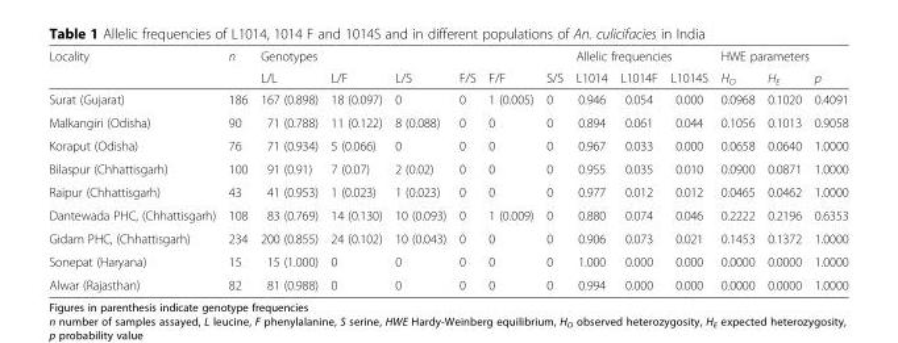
<table><thead><tr><td rowspan="2">Locality</td><td rowspan="2">n</td><td colspan="6">Genotypes</td><td colspan="3">Allelic frequencies</td><td colspan="3">HWE parameters</td></tr><tr><td>L/L</td><td>L/F</td><td>L/S</td><td>F/S</td><td>F/F</td><td>S/S</td><td>L1014</td><td>L1014F</td><td>L1014S</td><td>H<sub>O</sub></td><td>H<sub>E</sub></td><td>p</td></tr></thead><tbody><tr><td>Surat (Gujarat)</td><td>186</td><td>167 (0.898)</td><td>18 (0.097)</td><td>0</td><td>0</td><td>1 (0.005)</td><td>0</td><td>0.946</td><td>0.054</td><td>0.000</td><td>0.0968</td><td>0.1020</td><td>0.4091</td></tr><tr><td>Malkangiri (Odisha)</td><td>90</td><td>71 (0.788)</td><td>11 (0.122)</td><td>8 (0.088)</td><td>0</td><td>0</td><td>0</td><td>0.894</td><td>0.061</td><td>0.044</td><td>0.1056</td><td>0.1013</td><td>0.9058</td></tr><tr><td>Koraput (Odisha)</td><td>76</td><td>71 (0.934)</td><td>5 (0.066)</td><td>0</td><td>0</td><td>0</td><td>0</td><td>0.967</td><td>0.033</td><td>0.000</td><td>0.0658</td><td>0.0640</td><td>1.0000</td></tr><tr><td>Bilaspur (Chhattisgarh)</td><td>100</td><td>91 (0.91)</td><td>7 (0.07)</td><td>2 (0.02)</td><td>0</td><td>0</td><td>0</td><td>0.955</td><td>0.035</td><td>0.010</td><td>0.0900</td><td>0.0871</td><td>1.0000</td></tr><tr><td>Raipur (Chhattisgarh)</td><td>43</td><td>41 (0.953)</td><td>1 (0.023)</td><td>1 (0.023)</td><td>0</td><td>0</td><td>0</td><td>0.977</td><td>0.012</td><td>0.012</td><td>0.0465</td><td>0.0462</td><td>1.0000</td></tr><tr><td>Dantewada PHC, (Chhattisgarh)</td><td>108</td><td>83 (0.769)</td><td>14 (0.130)</td><td>10 (0.093)</td><td>0</td><td>1 (0.009)</td><td>0</td><td>0.880</td><td>0.074</td><td>0.046</td><td>0.2222</td><td>0.2196</td><td>0.6353</td></tr><tr><td>Gidam PHC, (Chhattisgarh)</td><td>234</td><td>200 (0.855)</td><td>24 (0.102)</td><td>10 (0.043)</td><td>0</td><td>0</td><td>0</td><td>0.906</td><td>0.073</td><td>0.021</td><td>0.1453</td><td>0.1372</td><td>1.0000</td></tr><tr><td>Sonepat (Haryana)</td><td>15</td><td>15 (1.000)</td><td>0</td><td>0</td><td>0</td><td>0</td><td>0</td><td>1.000</td><td>0.000</td><td>0.000</td><td>0.0000</td><td>0.0000</td><td>1.0000</td></tr><tr><td>Alwar (Rajasthan)</td><td>82</td><td>81 (0.988)</td><td>0</td><td>0</td><td>0</td><td>0</td><td>0</td><td>0.994</td><td>0.000</td><td>0.000</td><td>0.0000</td><td>0.0000</td><td>1.0000</td></tr></tbody></table>